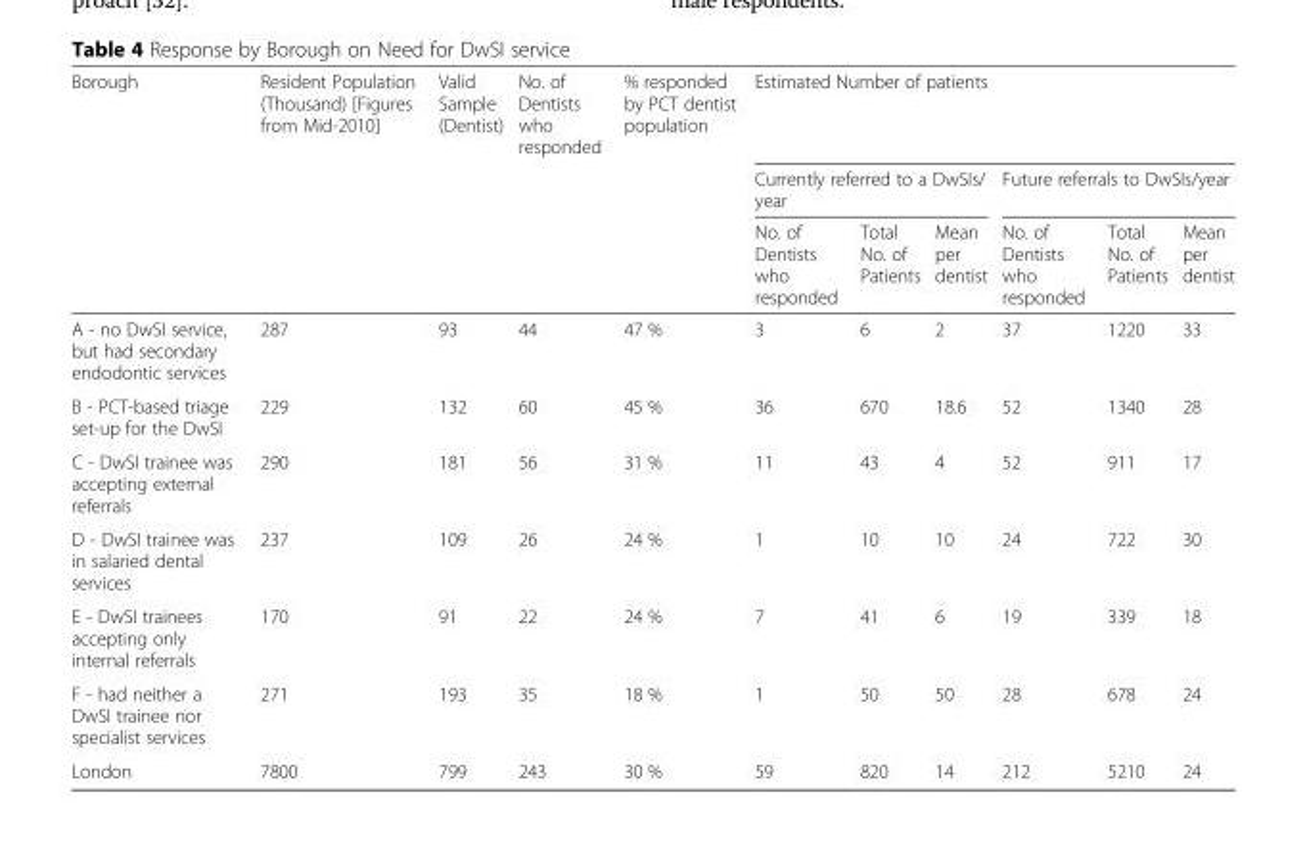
<table><thead><tr><td rowspan="3">Borough</td><td rowspan="3">Resident Population (Thousand) [Figures from Mid-2010]</td><td rowspan="3">Valid Sample (Dentist)</td><td rowspan="3">No. of Dentists who responded</td><td rowspan="3">% responded by PCT dentist population</td><td colspan="6">Estimated Number of patients</td></tr><tr><td colspan="3">Currently referred to a DwSIs/ year</td><td colspan="3">Future referrals to DwSIs/year</td></tr><tr><td>No. of Dentists who responded</td><td>Total No. of Patients</td><td>Mean per dentist</td><td>No. of Dentists who responded</td><td>Total No. of Patients</td><td>Mean per dentist</td></tr></thead><tbody><tr><td>A - no DwSI service, but had secondary endodontic services</td><td>287</td><td>93</td><td>44</td><td>47 %</td><td>3</td><td>6</td><td>2</td><td>37</td><td>1220</td><td>33</td></tr><tr><td>B - PCT-based triage set-up for the DwSI</td><td>229</td><td>132</td><td>60</td><td>45 %</td><td>36</td><td>670</td><td>18.6</td><td>52</td><td>1340</td><td>28</td></tr><tr><td>C - DwSI trainee was accepting external referrals</td><td>290</td><td>181</td><td>56</td><td>31 %</td><td>11</td><td>43</td><td>4</td><td>52</td><td>911</td><td>17</td></tr><tr><td>D - DwSI trainee was in salaried dental services</td><td>237</td><td>109</td><td>26</td><td>24 %</td><td>1</td><td>10</td><td>10</td><td>24</td><td>722</td><td>30</td></tr><tr><td>E - DwSI trainees accepting only internal referrals</td><td>170</td><td>91</td><td>22</td><td>24 %</td><td>7</td><td>41</td><td>6</td><td>19</td><td>339</td><td>18</td></tr><tr><td>F - had neither a DwSI trainee nor specialist services</td><td>271</td><td>193</td><td>35</td><td>18 %</td><td>1</td><td>50</td><td>50</td><td>28</td><td>678</td><td>24</td></tr><tr><td>London</td><td>7800</td><td>799</td><td>243</td><td>30 %</td><td>59</td><td>820</td><td>14</td><td>212</td><td>5210</td><td>24</td></tr></tbody></table>